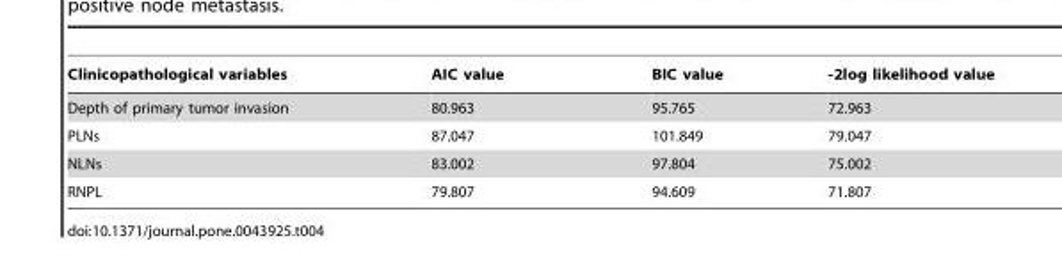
<table><thead><tr><td>Clinicopathological variables</td><td>AIC value</td><td>BIC value</td><td>-2log likelihood value</td></tr></thead><tbody><tr><td>Depth of primary tumor invasion</td><td>80.963</td><td>95.765</td><td>72.963</td></tr><tr><td>PLNs</td><td>87.047</td><td>101.849</td><td>79.047</td></tr><tr><td>NLNs</td><td>83.002</td><td>97.804</td><td>75.002</td></tr><tr><td>RNPL</td><td>79.807</td><td>94.609</td><td>71.807</td></tr></tbody></table>